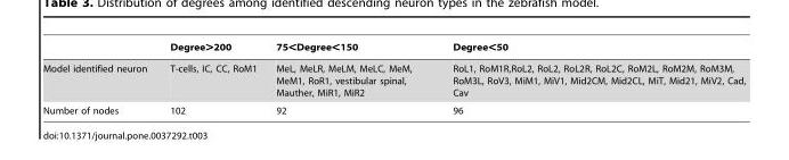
<table><thead><tr><td></td><td>Degree&gt;200</td><td>75&lt;Degree&lt;150</td><td>Degree&lt;50</td></tr></thead><tbody><tr><td>Model identified neuron</td><td>T-cells, IC, CC, RoM1</td><td>MeL, MeLR, MeLM, MeLC, MeM, MeM1, RoR1, vestibular spinal, Mauther, MiR1, MiR2</td><td>RoL1, RoM1R,RoL2, RoL2, RoL2R, RoL2C, RoM2L, RoM2M, RoM3M, RoM3L, RoV3, MiM1, MiV1, Mid2CM, Mid2CL, MiT, Mid21, MiV2, Cad, Cav</td></tr><tr><td>Number of nodes</td><td>102</td><td>92</td><td>96</td></tr></tbody></table>